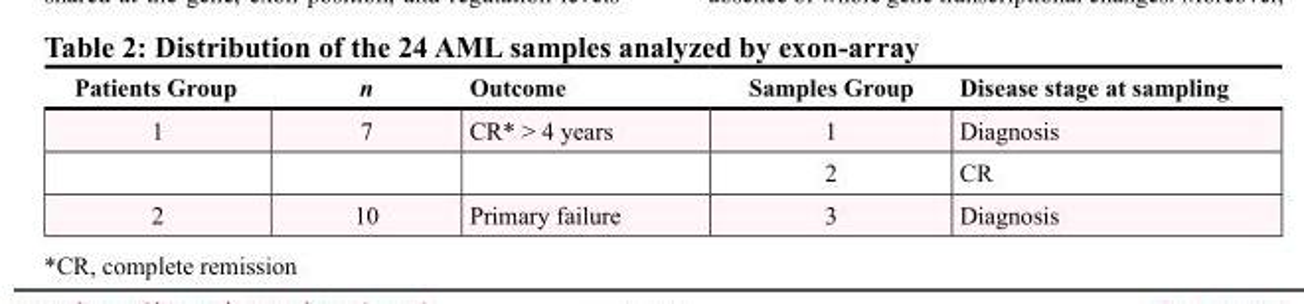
<table><thead><tr><td>Patients Group</td><td>n</td><td>Outcome</td><td>Samples Group</td><td>Disease stage at sampling</td></tr></thead><tbody><tr><td rowspan="2">1</td><td>7</td><td>CR* &gt; 4 years</td><td>1</td><td>Diagnosis</td></tr><tr><td></td><td></td><td>2</td><td>CR</td></tr><tr><td>2</td><td>10</td><td>Primary failure</td><td>3</td><td>Diagnosis</td></tr></tbody></table>